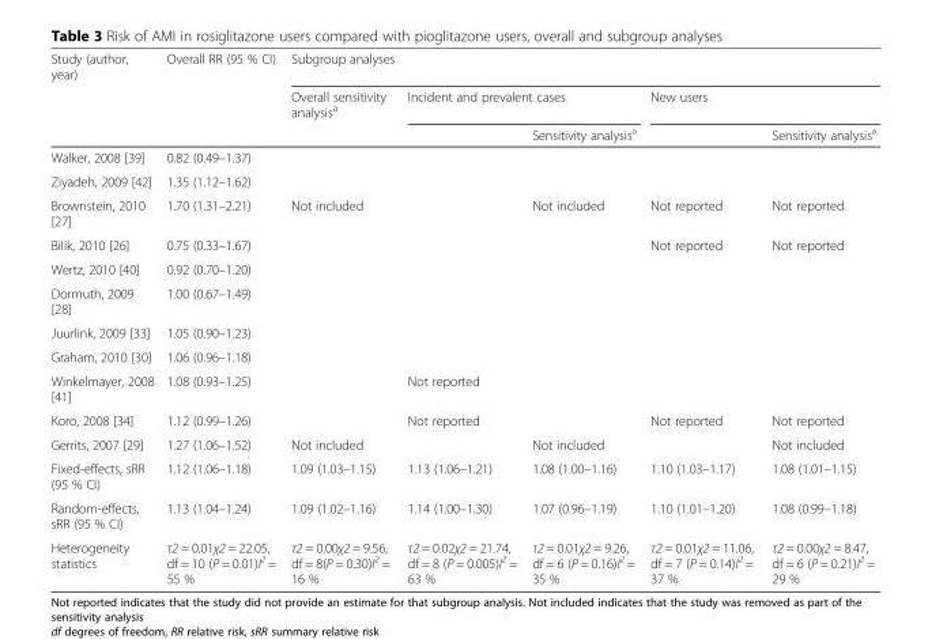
<table><thead><tr><td rowspan="3">Study (author, year)</td><td rowspan="3">Overall RR (95 % CI)</td><td colspan="5">Subgroup analyses</td></tr><tr><td rowspan="2">Overall sensitivity analysis<sup>a</sup></td><td colspan="2">Incident and prevalent cases</td><td colspan="2">New users</td></tr><tr><td></td><td>Sensitivity analysis<sup>a</sup></td><td></td><td>Sensitivity analysis<sup>a</sup></td></tr></thead><tbody><tr><td>Walker, 2008 [39]</td><td>0.82 (0.49–1.37)</td><td></td><td></td><td></td><td></td><td></td></tr><tr><td>Ziyadeh, 2009 [42]</td><td>1.35 (1.12–1.62)</td><td></td><td></td><td></td><td></td><td></td></tr><tr><td>Brownstein, 2010 [27]</td><td>1.70 (1.31–2.21)</td><td>Not included</td><td></td><td>Not included</td><td>Not reported</td><td>Not reported</td></tr><tr><td>Bilik, 2010 [26]</td><td>0.75 (0.33–1.67)</td><td></td><td></td><td></td><td>Not reported</td><td>Not reported</td></tr><tr><td>Wertz, 2010 [40]</td><td>0.92 (0.70–1.20)</td><td></td><td></td><td></td><td></td><td></td></tr><tr><td>Dormuth, 2009 [28]</td><td>1.00 (0.67–1.49)</td><td></td><td></td><td></td><td></td><td></td></tr><tr><td>Juurlink, 2009 [33]</td><td>1.05 (0.90–1.23)</td><td></td><td></td><td></td><td></td><td></td></tr><tr><td>Graham, 2010 [30]</td><td>1.06 (0.96–1.18)</td><td></td><td></td><td></td><td></td><td></td></tr><tr><td>Winkelmayer, 2008 [41]</td><td>1.08 (0.93–1.25)</td><td></td><td>Not reported</td><td></td><td></td><td></td></tr><tr><td>Koro, 2008 [34]</td><td>1.12 (0.99–1.26)</td><td></td><td>Not reported</td><td></td><td>Not reported</td><td>Not reported</td></tr><tr><td>Gerrits, 2007 [29]</td><td>1.27 (1.06–1.52)</td><td>Not included</td><td></td><td>Not included</td><td></td><td>Not included</td></tr><tr><td>Fixed-effects, sRR (95 % CI)</td><td>1.12 (1.06–1.18)</td><td>1.09 (1.03–1.15)</td><td>1.13 (1.06–1.21)</td><td>1.08 (1.00–1.16)</td><td>1.10 (1.03–1.17)</td><td>1.08 (1.01–1.15)</td></tr><tr><td>Random-effects, sRR (95 % CI)</td><td>1.13 (1.04–1.24)</td><td>1.09 (1.02–1.16)</td><td>1.14 (1.00–1.30)</td><td>1.07 (0.96–1.19)</td><td>1.10 (1.01–1.20)</td><td>1.08 (0.99–1.18)</td></tr><tr><td>Heterogeneity statistics</td><td>τ2 = 0.01χ2 = 22.05, df = 10 (P = 0.01)I<sup>2</sup> = 55 %</td><td>τ2 = 0.00χ2 = 9.56, df = 8(P = 0.30)I<sup>2</sup> = 16 %</td><td>τ2 = 0.02χ2 = 21.74, df = 8 (P = 0.005)I<sup>2</sup> = 63 %</td><td>τ2 = 0.01χ2 = 9.26, df = 6 (P = 0.16)I<sup>2</sup> = 35 %</td><td>τ2 = 0.01χ2 = 11.06, df = 7 (P = 0.14)I<sup>2</sup> = 37 %</td><td>τ2 = 0.00χ2 = 8.47, df = 6 (P = 0.21)I<sup>2</sup> = 29 %</td></tr></tbody></table>